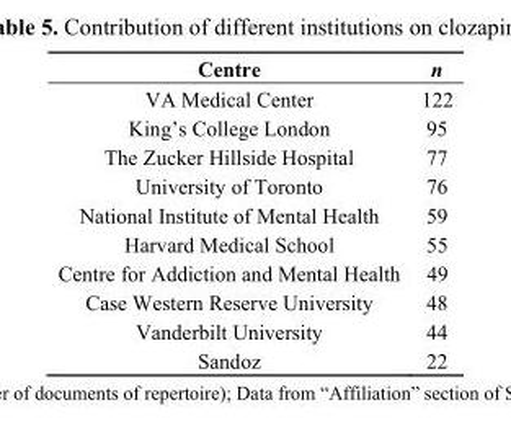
<table><thead><tr><td>Centre</td><td>n</td></tr></thead><tbody><tr><td>VA Medical Center</td><td>122</td></tr><tr><td>King’s College London</td><td>95</td></tr><tr><td>The Zucker Hillside Hospital</td><td>77</td></tr><tr><td>University of Toronto</td><td>76</td></tr><tr><td>National Institute of Mental Health</td><td>59</td></tr><tr><td>Harvard Medical School</td><td>55</td></tr><tr><td>Centre for Addiction and Mental Health</td><td>49</td></tr><tr><td>Case Western Reserve University</td><td>48</td></tr><tr><td>Vanderbilt University</td><td>44</td></tr><tr><td>Sandoz</td><td>22</td></tr></tbody></table>